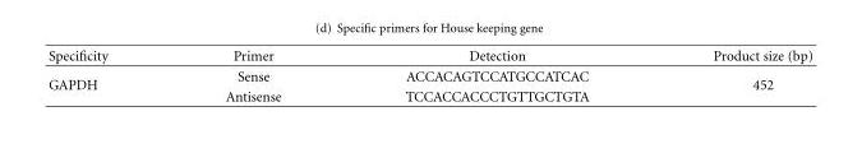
<table><thead><tr><td>Specificity</td><td>Primer</td><td>Detection</td><td>Product size (bp)</td></tr></thead><tbody><tr><td rowspan="2">GAPDH</td><td>Sense</td><td>ACCACAGTCCATGCCATCAC</td><td rowspan="2">452</td></tr><tr><td>Antisense</td><td>TCCACCACCCTGTTGCTGTA</td></tr></tbody></table>